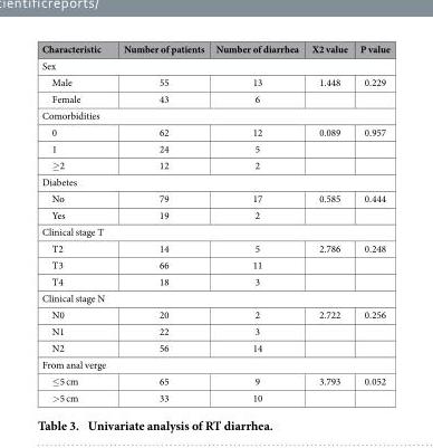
<table><thead><tr><td>Characteristic</td><td>Number of patients</td><td>Number of diarrhea</td><td>X2 value</td><td>P value</td></tr></thead><tbody><tr><td colspan="5">Sex</td></tr><tr><td>Male</td><td>55</td><td>13</td><td>1.448</td><td>0.229</td></tr><tr><td>Female</td><td>43</td><td>6</td><td></td><td></td></tr><tr><td colspan="5">Comorbidities</td></tr><tr><td>0</td><td>62</td><td>12</td><td>0.089</td><td>0.957</td></tr><tr><td>1</td><td>24</td><td>5</td><td></td><td></td></tr><tr><td>≥ 2</td><td>12</td><td>2</td><td></td><td></td></tr><tr><td colspan="5">Diabetes</td></tr><tr><td>No</td><td>79</td><td>17</td><td>0.585</td><td>0.444</td></tr><tr><td>Yes</td><td>19</td><td>2</td><td></td><td></td></tr><tr><td colspan="5">Clinical stage T</td></tr><tr><td>T2</td><td>14</td><td>5</td><td>2.786</td><td>0.248</td></tr><tr><td>T3</td><td>66</td><td>11</td><td></td><td></td></tr><tr><td>T4</td><td>18</td><td>3</td><td></td><td></td></tr><tr><td colspan="5">Clinical stage N</td></tr><tr><td>N0</td><td>20</td><td>2</td><td>2.722</td><td>0.256</td></tr><tr><td>N1</td><td>22</td><td>3</td><td></td><td></td></tr><tr><td>N2</td><td>56</td><td>14</td><td></td><td></td></tr><tr><td colspan="5">From anal verge</td></tr><tr><td>≤ 5 cm</td><td>65</td><td>9</td><td>3.793</td><td>0.052</td></tr><tr><td>&gt; 5 cm</td><td>33</td><td>10</td><td></td><td></td></tr></tbody></table>